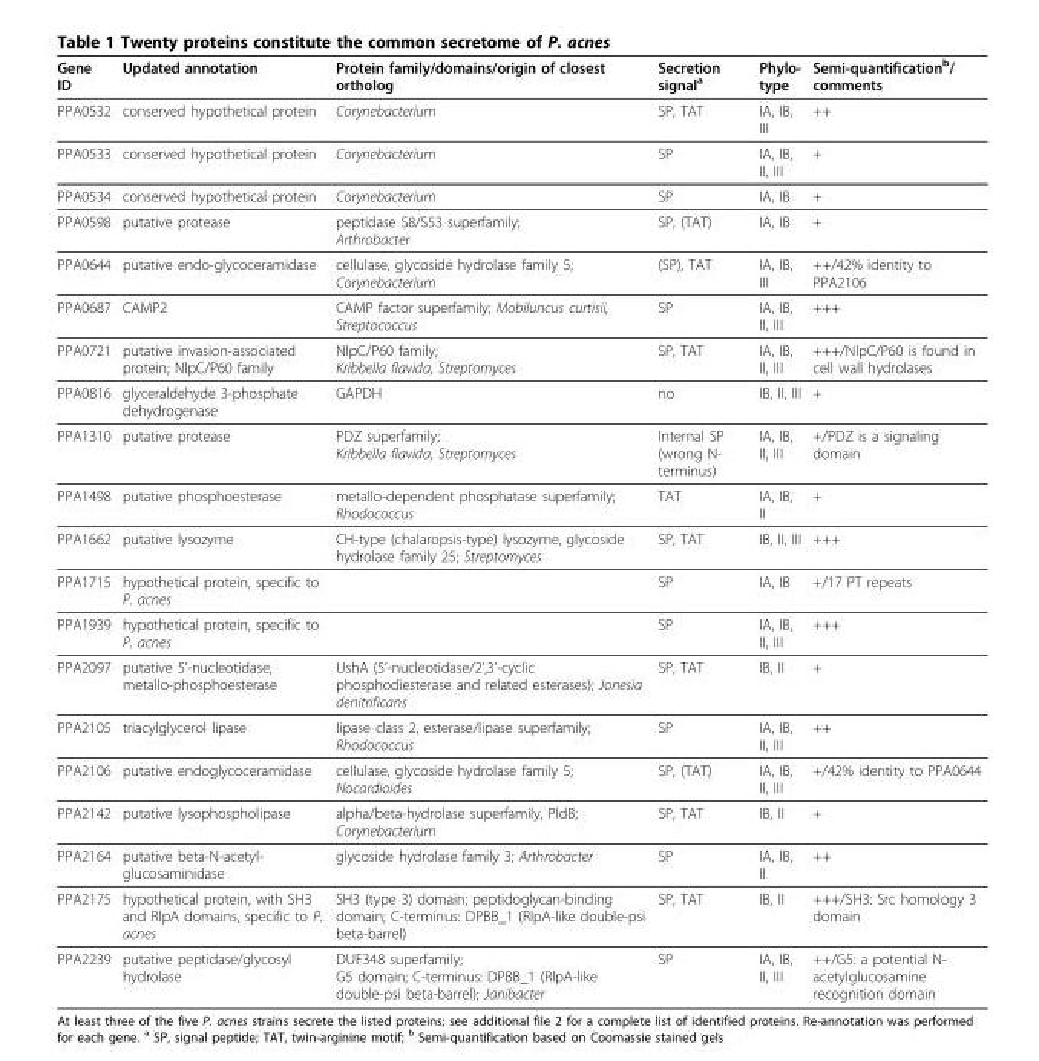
<table><thead><tr><td>Gene ID</td><td>Updated annotation</td><td>Protein family/domains/origin of closest ortholog</td><td>Secretion signal<sup>a</sup></td><td>Phylo- type</td><td>Semi-quantification<sup>b</sup>/ comments</td></tr></thead><tbody><tr><td>PPA0532</td><td>conserved hypothetical protein</td><td>Corynebacterium</td><td>SP, TAT</td><td>IA, IB, III</td><td>++</td></tr><tr><td>PPA0533</td><td>conserved hypothetical protein</td><td>Corynebacterium</td><td>SP</td><td>IA, IB, II, III</td><td>+</td></tr><tr><td>PPA0534</td><td>conserved hypothetical protein</td><td>Corynebacterium</td><td>SP</td><td>IA, IB</td><td>+</td></tr><tr><td>PPA0598</td><td>putative protease</td><td>peptidase S8/S53 superfamily; Arthrobacter</td><td>SP, (TAT)</td><td>IA, IB</td><td>+</td></tr><tr><td>PPA0644</td><td>putative endo-glycoceramidase</td><td>cellulase, glycoside hydrolase family 5; Corynebacterium</td><td>(SP), TAT</td><td>IA, IB, III</td><td>++/42% identity to PPA2106</td></tr><tr><td>PPA0687</td><td>CAMP2</td><td>CAMP factor superfamily; Mobiluncus curtisii, Streptococcus</td><td>SP</td><td>IA, IB, II, III</td><td>+++</td></tr><tr><td>PPA0721</td><td>putative invasion-associated protein; NlpC/P60 family</td><td>NlpC/P60 family; Kribbella flavida, Streptomyces</td><td>SP, TAT</td><td>IA, IB, II, III</td><td>+++/NlpC/P60 is found in cell wall hydrolases</td></tr><tr><td>PPA0816</td><td>glyceraldehyde 3-phosphate dehydrogenase</td><td>GAPDH</td><td>no</td><td>IB, II, III</td><td>+</td></tr><tr><td>PPA1310</td><td>putative protease</td><td>PDZ superfamily; Kribbella flavida, Streptomyces</td><td>Internal SP (wrong N- terminus)</td><td>IA, IB, II, III</td><td>+/PDZ is a signaling domain</td></tr><tr><td>PPA1498</td><td>putative phosphoesterase</td><td>metallo-dependent phosphatase superfamily; Rhodococcus</td><td>TAT</td><td>IA, IB, II</td><td>+</td></tr><tr><td>PPA1662</td><td>putative lysozyme</td><td>CH-type (chalaropsis-type) lysozyme, glycoside hydrolase family 25; Streptomyces</td><td>SP, TAT</td><td>IB, II, III</td><td>+++</td></tr><tr><td>PPA1715</td><td>hypothetical protein, specific to P. acnes</td><td></td><td>SP</td><td>IA, IB</td><td>+/17 PT repeats</td></tr><tr><td>PPA1939</td><td>hypothetical protein, specific to P. acnes</td><td></td><td>SP</td><td>IA, IB, II, III</td><td>+++</td></tr><tr><td>PPA2097</td><td>putative 5’-nucleotidase, metallo-phosphoesterase</td><td>UshA (5’-nucleotidase/2’,3’-cyclic phosphodiesterase and related esterases); Jonesia denitrificans</td><td>SP, TAT</td><td>IB, II</td><td>+</td></tr><tr><td>PPA2105</td><td>triacylglycerol lipase</td><td>lipase class 2, esterase/lipase superfamily; Rhodococcus</td><td>SP</td><td>IA, IB, II, III</td><td>++</td></tr><tr><td>PPA2106</td><td>putative endoglycoceramidase</td><td>cellulase, glycoside hydrolase family 5; Nocardioides</td><td>SP, (TAT)</td><td>IA, IB, II, III</td><td>+/42% identity to PPA0644</td></tr><tr><td>PPA2142</td><td>putative lysophospholipase</td><td>alpha/beta-hydrolase superfamily, PldB; Corynebacterium</td><td>SP, TAT</td><td>IB, II</td><td>+</td></tr><tr><td>PPA2164</td><td>putative beta-N-acetyl- glucosaminidase</td><td>glycoside hydrolase family 3; Arthrobacter</td><td>SP</td><td>IA, IB, II</td><td>++</td></tr><tr><td>PPA2175</td><td>hypothetical protein, with SH3 and RlpA domains, specific to P. acnes</td><td>SH3 (type 3) domain; peptidoglycan-binding domain; C-terminus: DPBB_1 (RlpA-like double-psi beta-barrel)</td><td>SP, TAT</td><td>IB, II</td><td>+++/SH3: Src homology 3 domain</td></tr><tr><td>PPA2239</td><td>putative peptidase/glycosyl hydrolase</td><td>DUF348 superfamily; G5 domain; C-terminus: DPBB_1 (RlpA-like double-psi beta-barrel); Janibacter</td><td>SP</td><td>IA, IB, II, III</td><td>++/G5: a potential N- acetylglucosamine recognition domain</td></tr></tbody></table>